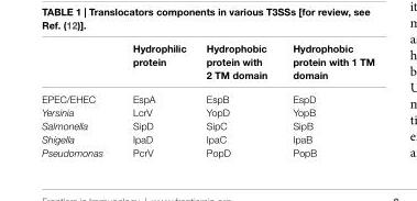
<table><thead><tr><td></td><td>Hydrophilic protein</td><td>Hydrophobic protein with 2 TM domain</td><td>Hydrophobic protein with 1 TM domain</td></tr></thead><tbody><tr><td>EPEC/EHEC</td><td>EspA</td><td>EspB</td><td>EspD</td></tr><tr><td>Yersinia</td><td>LcrV</td><td>YopD</td><td>YopB</td></tr><tr><td>Salmonella</td><td>SipD</td><td>SipC</td><td>SipB</td></tr><tr><td>Shigella</td><td>IpaD</td><td>IpaC</td><td>IpaB</td></tr><tr><td>Pseudomonas</td><td>PcrV</td><td>PopD</td><td>PopB</td></tr></tbody></table>